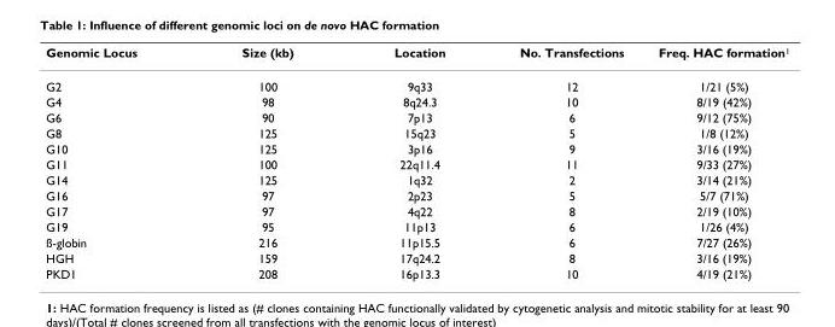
<table><thead><tr><td>Genomic Locus</td><td>Size (kb)</td><td>Location</td><td>No. Transfections</td><td>Freq. HAC formation1</td></tr></thead><tbody><tr><td>G2</td><td>100</td><td>9q33</td><td>12</td><td>1/21 (5%)</td></tr><tr><td>G4</td><td>98</td><td>8q24.3</td><td>10</td><td>8/19 (42%)</td></tr><tr><td>G6</td><td>90</td><td>7p13</td><td>6</td><td>9/12 (75%)</td></tr><tr><td>G8</td><td>125</td><td>15q23</td><td>5</td><td>1/8 (12%)</td></tr><tr><td>G10</td><td>125</td><td>3p16</td><td>9</td><td>3/16 (19%)</td></tr><tr><td>G11</td><td>100</td><td>22q11.4</td><td>11</td><td>9/33 (27%)</td></tr><tr><td>G14</td><td>125</td><td>1q32</td><td>2</td><td>3/14 (21%)</td></tr><tr><td>G16</td><td>97</td><td>2p23</td><td>5</td><td>5/7 (71%)</td></tr><tr><td>G17</td><td>97</td><td>4q22</td><td>8</td><td>2/19 (10%)</td></tr><tr><td>G19</td><td>95</td><td>11p13</td><td>6</td><td>1/26 (4%)</td></tr><tr><td>ß-globin</td><td>216</td><td>11p15.5</td><td>6</td><td>7/27 (26%)</td></tr><tr><td>HGH</td><td>159</td><td>17q24.2</td><td>8</td><td>3/16 (19%)</td></tr><tr><td>PKD1</td><td>208</td><td>16p13.3</td><td>10</td><td>4/19 (21%)</td></tr></tbody></table>